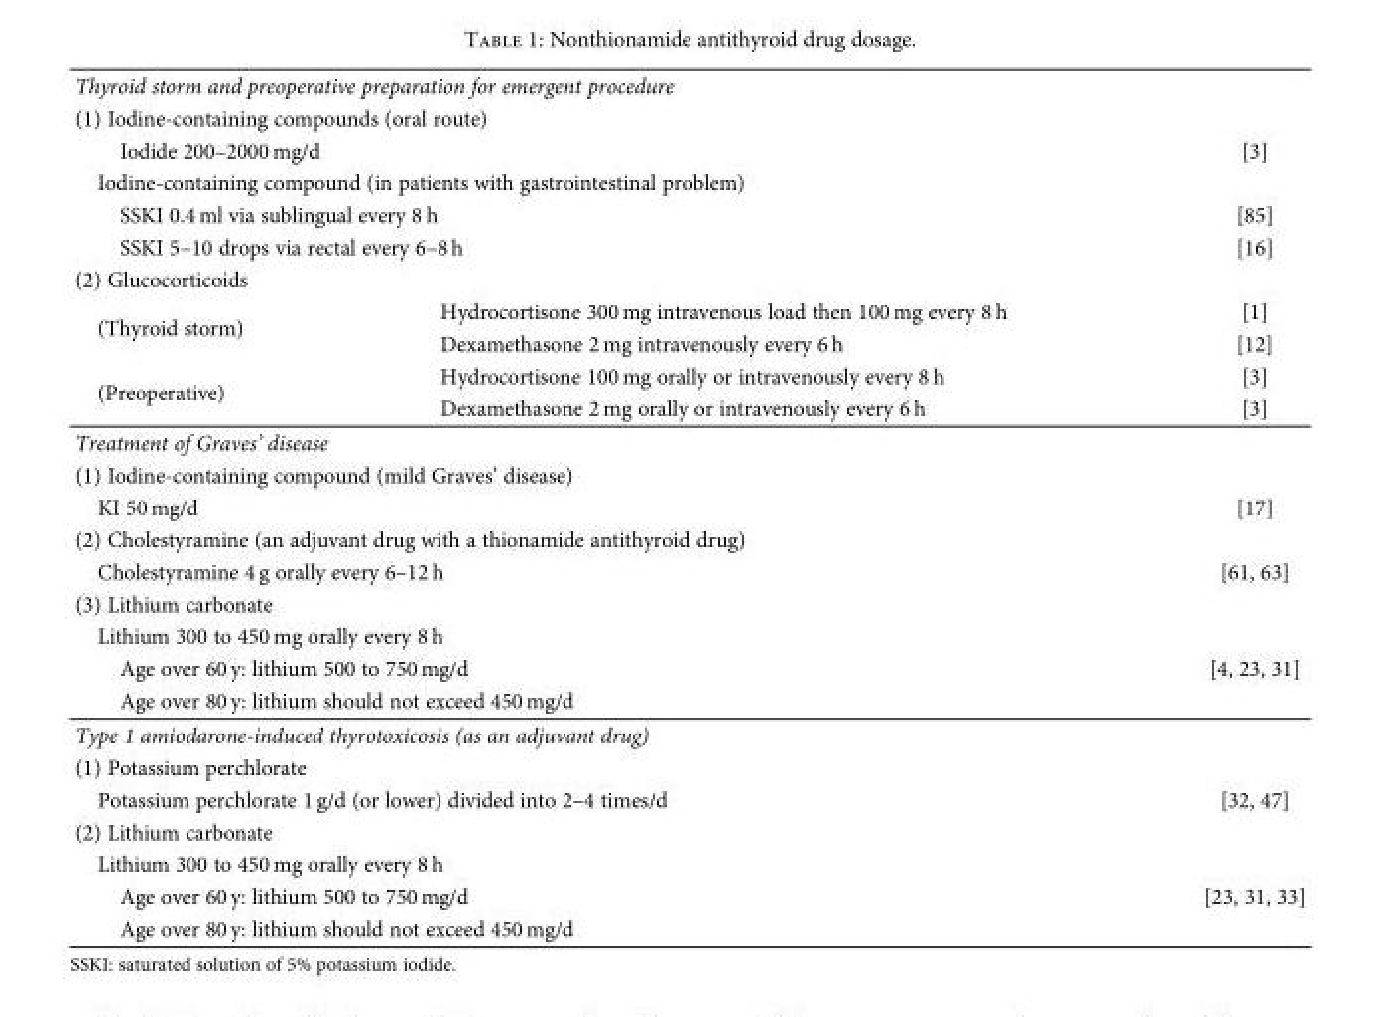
<table><tbody><tr><td colspan="3">Thyroid storm and preoperative preparation for emergent procedure</td></tr><tr><td colspan="3">(1) Iodine-containing compounds (oral route)</td></tr><tr><td colspan="2">Iodide 200–2000 mg/d</td><td>[3]</td></tr><tr><td colspan="3">Iodine-containing compound (in patients with gastrointestinal problem)</td></tr><tr><td colspan="2">SSKI 0.4 ml via sublingual every 8 h</td><td>[85]</td></tr><tr><td colspan="2">SSKI 5–10 drops via rectal every 6–8 h</td><td>[16]</td></tr><tr><td colspan="3">(2) Glucocorticoids</td></tr><tr><td rowspan="2">(Thyroid storm)</td><td>Hydrocortisone 300 mg intravenous load then 100 mg every 8 h</td><td>[1]</td></tr><tr><td>Dexamethasone 2 mg intravenously every 6 h</td><td>[12]</td></tr><tr><td rowspan="2">(Preoperative)</td><td>Hydrocortisone 100 mg orally or intravenously every 8 h</td><td>[3]</td></tr><tr><td>Dexamethasone 2 mg orally or intravenously every 6 h</td><td>[3]</td></tr><tr><td colspan="3">Treatment of Graves’ disease</td></tr><tr><td colspan="3">(1) Iodine-containing compound (mild Graves’ disease)</td></tr><tr><td colspan="2">KI 50 mg/d</td><td>[17]</td></tr><tr><td colspan="3">(2) Cholestyramine (an adjuvant drug with a thionamide antithyroid drug)</td></tr><tr><td colspan="2">Cholestyramine 4 g orally every 6–12 h</td><td>[61, 63]</td></tr><tr><td colspan="3">(3) Lithium carbonate</td></tr><tr><td colspan="2">Lithium 300 to 450 mg orally every 8 h</td><td rowspan="3">[4, 23, 31]</td></tr><tr><td colspan="2">Age over 60 y: lithium 500 to 750 mg/d</td></tr><tr><td colspan="2">Age over 80 y: lithium should not exceed 450 mg/d</td></tr><tr><td colspan="3">Type 1 amiodarone-induced thyrotoxicosis (as an adjuvant drug)</td></tr><tr><td colspan="3">(1) Potassium perchlorate</td></tr><tr><td colspan="2">Potassium perchlorate 1 g/d (or lower) divided into 2–4 times/d</td><td>[32, 47]</td></tr><tr><td colspan="3">(2) Lithium carbonate</td></tr><tr><td colspan="2">Lithium 300 to 450 mg orally every 8 h</td><td rowspan="3">[23, 31, 33]</td></tr><tr><td colspan="2">Age over 60 y: lithium 500 to 750 mg/d</td></tr><tr><td colspan="2">Age over 80 y: lithium should not exceed 450 mg/d</td></tr></tbody></table>